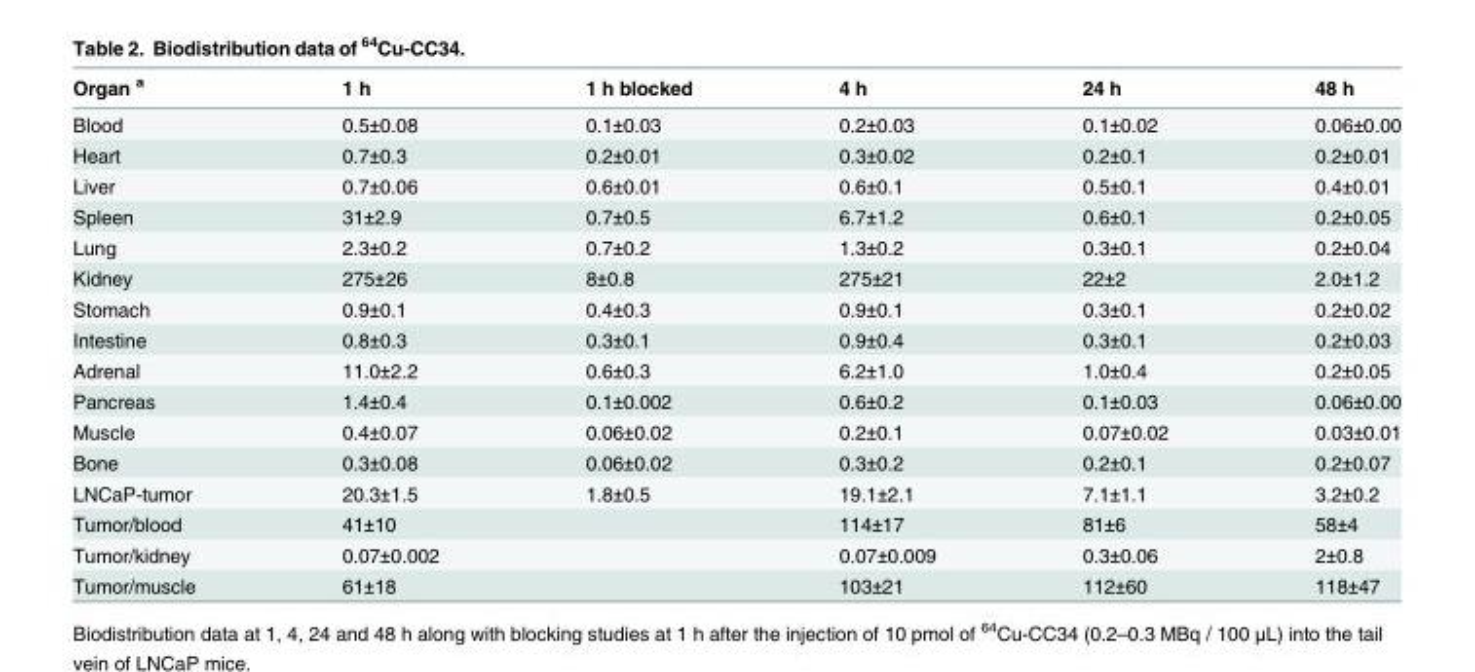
<table><thead><tr><td>Organ <sup>a</sup></td><td>1 h</td><td>1 h blocked</td><td>4 h</td><td>24 h</td><td>48 h</td></tr></thead><tbody><tr><td>Blood</td><td>0.5±0.08</td><td>0.1±0.03</td><td>0.2±0.03</td><td>0.1±0.02</td><td>0.06±0.00</td></tr><tr><td>Heart</td><td>0.7±0.3</td><td>0.2±0.01</td><td>0.3±0.02</td><td>0.2±0.1</td><td>0.2±0.01</td></tr><tr><td>Liver</td><td>0.7±0.06</td><td>0.6±0.01</td><td>0.6±0.1</td><td>0.5±0.1</td><td>0.4±0.01</td></tr><tr><td>Spleen</td><td>31±2.9</td><td>0.7±0.5</td><td>6.7±1.2</td><td>0.6±0.1</td><td>0.2±0.05</td></tr><tr><td>Lung</td><td>2.3±0.2</td><td>0.7±0.2</td><td>1.3±0.2</td><td>0.3±0.1</td><td>0.2±0.04</td></tr><tr><td>Kidney</td><td>275±26</td><td>8±0.8</td><td>275±21</td><td>22±2</td><td>2.0±1.2</td></tr><tr><td>Stomach</td><td>0.9±0.1</td><td>0.4±0.3</td><td>0.9±0.1</td><td>0.3±0.1</td><td>0.2±0.02</td></tr><tr><td>Intestine</td><td>0.8±0.3</td><td>0.3±0.1</td><td>0.9±0.4</td><td>0.3±0.1</td><td>0.2±0.03</td></tr><tr><td>Adrenal</td><td>11.0±2.2</td><td>0.6±0.3</td><td>6.2±1.0</td><td>1.0±0.4</td><td>0.2±0.05</td></tr><tr><td>Pancreas</td><td>1.4±0.4</td><td>0.1±0.002</td><td>0.6±0.2</td><td>0.1±0.03</td><td>0.06±0.00</td></tr><tr><td>Muscle</td><td>0.4±0.07</td><td>0.06±0.02</td><td>0.2±0.1</td><td>0.07±0.02</td><td>0.03±0.01</td></tr><tr><td>Bone</td><td>0.3±0.08</td><td>0.06±0.02</td><td>0.3±0.2</td><td>0.2±0.1</td><td>0.2±0.07</td></tr><tr><td>LNCaP-tumor</td><td>20.3±1.5</td><td>1.8±0.5</td><td>19.1±2.1</td><td>7.1±1.1</td><td>3.2±0.2</td></tr><tr><td>Tumor/blood</td><td>41±10</td><td></td><td>114±17</td><td>81±6</td><td>58±4</td></tr><tr><td>Tumor/kidney</td><td>0.07±0.002</td><td></td><td>0.07±0.009</td><td>0.3±0.06</td><td>2±0.8</td></tr><tr><td>Tumor/muscle</td><td>61±18</td><td></td><td>103±21</td><td>112±60</td><td>118±47</td></tr></tbody></table>